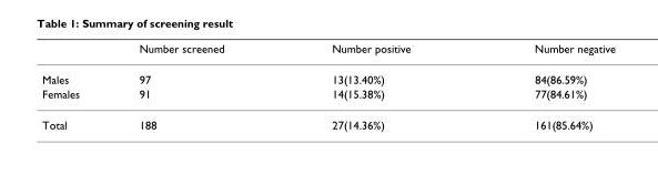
<table><thead><tr><td></td><td>Number screened</td><td>Number positive</td><td>Number negative</td></tr></thead><tbody><tr><td>Males</td><td>97</td><td>13(13.40%)</td><td>84(86.59%)</td></tr><tr><td>Females</td><td>91</td><td>14(15.38%)</td><td>77(84.61%)</td></tr><tr><td>Total</td><td>188</td><td>27(14.36%)</td><td>161(85.64%)</td></tr></tbody></table>